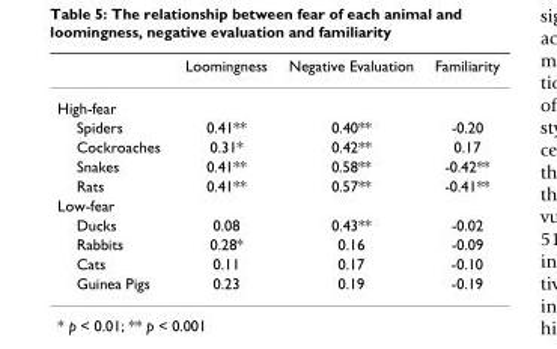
<table><thead><tr><td></td><td>Loomingness</td><td>Negative Evaluation</td><td>Familiarity</td></tr></thead><tbody><tr><td colspan="4">High-fear</td></tr><tr><td>Spiders</td><td>0.41**</td><td>0.40**</td><td>-0.20</td></tr><tr><td>Cockroaches</td><td>0.31*</td><td>0.42**</td><td>0.17</td></tr><tr><td>Snakes</td><td>0.41**</td><td>0.58**</td><td>-0.42**</td></tr><tr><td>Rats</td><td>0.41**</td><td>0.57**</td><td>-0.41**</td></tr><tr><td colspan="4">Low-fear</td></tr><tr><td>Ducks</td><td>0.08</td><td>0.43**</td><td>-0.02</td></tr><tr><td>Rabbits</td><td>0.28*</td><td>0.16</td><td>-0.09</td></tr><tr><td>Cats</td><td>0.11</td><td>0.17</td><td>-0.10</td></tr><tr><td>Guinea Pigs</td><td>0.23</td><td>0.19</td><td>-0.19</td></tr></tbody></table>